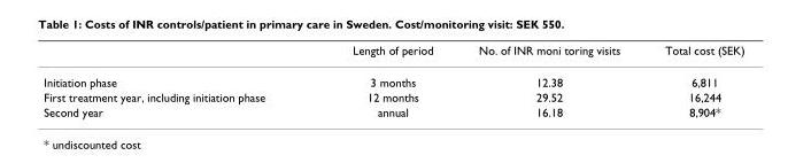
<table><thead><tr><td></td><td>Length of period</td><td>No. of INR moni toring visits</td><td>Total cost (SEK)</td></tr></thead><tbody><tr><td>Initiation phase</td><td>3 months</td><td>12.38</td><td>6,811</td></tr><tr><td>First treatment year, including initiation phase</td><td>12 months</td><td>29.52</td><td>16,244</td></tr><tr><td>Second year</td><td>annual</td><td>16.18</td><td>8,904*</td></tr></tbody></table>